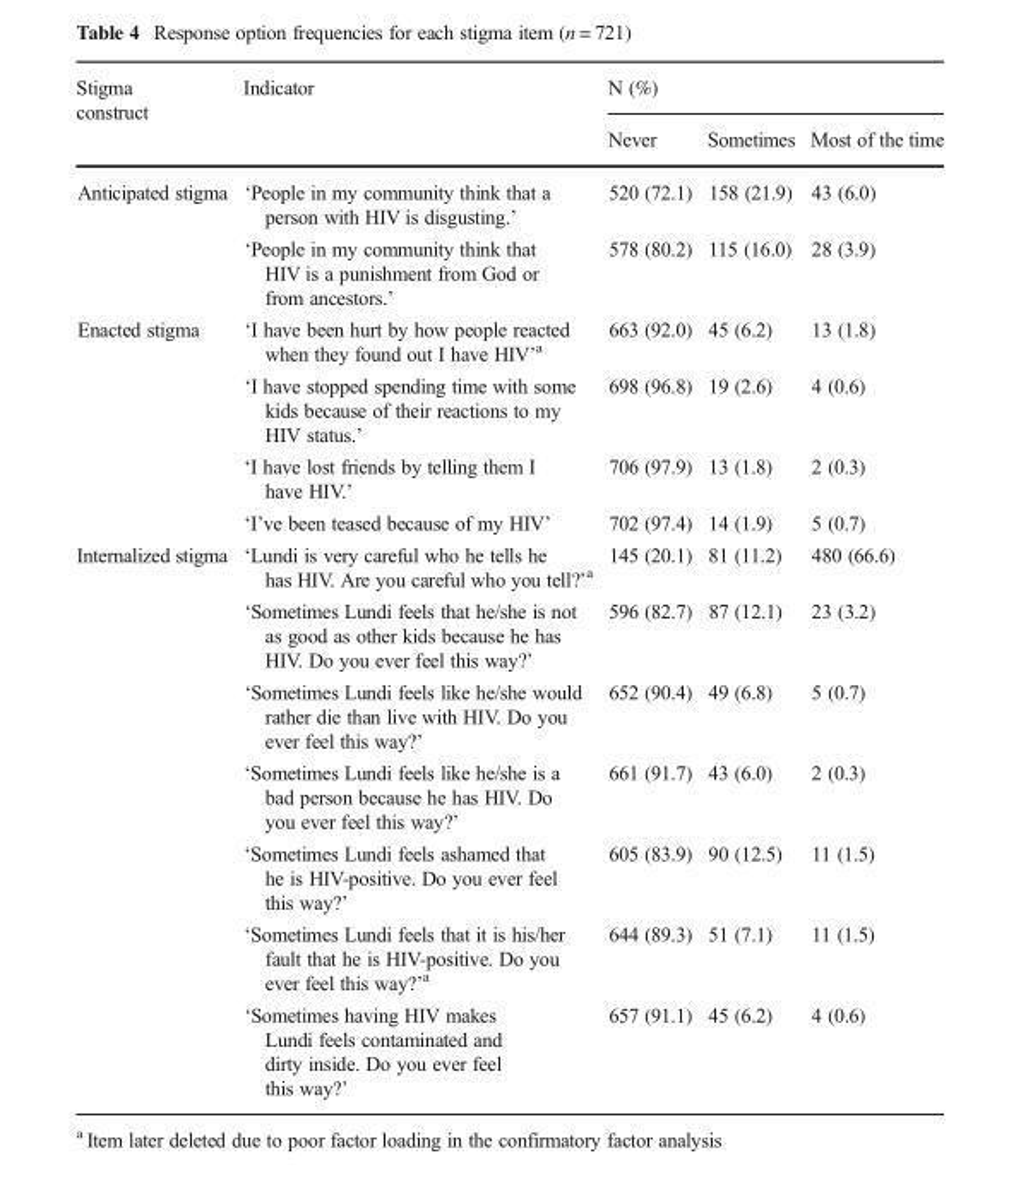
<table><thead><tr><td rowspan="2">Stigma construct</td><td rowspan="2">Indicator</td><td colspan="3">N (%)</td></tr><tr><td>Never</td><td>Sometimes</td><td>Most of the time</td></tr></thead><tbody><tr><td rowspan="2">Anticipated stigma</td><td>‘People in my community think that a person with HIV is disgusting.’</td><td>520 (72.1)</td><td>158 (21.9)</td><td>43 (6.0)</td></tr><tr><td>‘People in my community think that HIV is a punishment from God or from ancestors.’</td><td>578 (80.2)</td><td>115 (16.0)</td><td>28 (3.9)</td></tr><tr><td rowspan="4">Enacted stigma</td><td>‘I have been hurt by how people reacted when they found out I have HIV’<sup>a</sup></td><td>663 (92.0)</td><td>45 (6.2)</td><td>13 (1.8)</td></tr><tr><td>‘I have stopped spending time with some kids because of their reactions to my HIV status.’</td><td>698 (96.8)</td><td>19 (2.6)</td><td>4 (0.6)</td></tr><tr><td>‘I have lost friends by telling them I have HIV.’</td><td>706 (97.9)</td><td>13 (1.8)</td><td>2 (0.3)</td></tr><tr><td>‘I’ve been teased because of my HIV’</td><td>702 (97.4)</td><td>14 (1.9)</td><td>5 (0.7)</td></tr><tr><td rowspan="7">Internalized stigma</td><td>‘Lundi is very careful who he tells he has HIV. Are you careful who you tell?’<sup>a</sup></td><td>145 (20.1)</td><td>81 (11.2)</td><td>480 (66.6)</td></tr><tr><td>‘Sometimes Lundi feels that he/she is not as good as other kids because he has HIV. Do you ever feel this way?’</td><td>596 (82.7)</td><td>87 (12.1)</td><td>23 (3.2)</td></tr><tr><td>‘Sometimes Lundi feels like he/she would rather die than live with HIV. Do you ever feel this way?’</td><td>652 (90.4)</td><td>49 (6.8)</td><td>5 (0.7)</td></tr><tr><td>‘Sometimes Lundi feels like he/she is a bad person because he has HIV. Do you ever feel this way?’</td><td>661 (91.7)</td><td>43 (6.0)</td><td>2 (0.3)</td></tr><tr><td>‘Sometimes Lundi feels ashamed that he is HIV-positive. Do you ever feel this way?’</td><td>605 (83.9)</td><td>90 (12.5)</td><td>11 (1.5)</td></tr><tr><td>‘Sometimes Lundi feels that it is his/her fault that he is HIV-positive. Do you ever feel this way?’<sup>a</sup></td><td>644 (89.3)</td><td>51 (7.1)</td><td>11 (1.5)</td></tr><tr><td>‘Sometimes having HIV makes Lundi feels contaminated and dirty inside. Do you ever feel this way?’</td><td>657 (91.1)</td><td>45 (6.2)</td><td>4 (0.6)</td></tr></tbody></table>